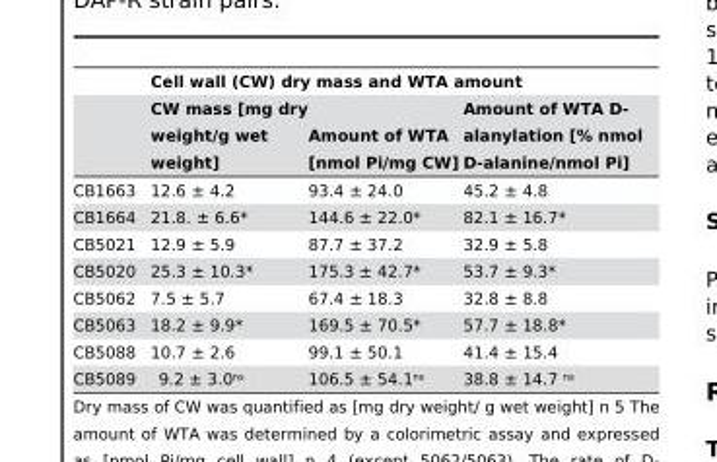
<table><thead><tr><td rowspan="2"></td><td colspan="3">Cell wall (CW) dry mass and WTA amount</td></tr><tr><td>CW mass [mg dry weight/g wet weight]</td><td>Amount of WTA [nmol Pi/mg CW]</td><td>Amount of WTA D- alanylation [% nmol D-alanine/nmol Pi]</td></tr></thead><tbody><tr><td>CB1663</td><td>12.6 ± 4.2</td><td>93.4 ± 24.0</td><td>45.2 ± 4.8</td></tr><tr><td>CB1664</td><td>21.8. ± 6.6*</td><td>144.6 ± 22.0*</td><td>82.1 ± 16.7*</td></tr><tr><td>CB5021</td><td>12.9 ± 5.9</td><td>87.7 ± 37.2</td><td>32.9 ± 5.8</td></tr><tr><td>CB5020</td><td>25.3 ± 10.3*</td><td>175.3 ± 42.7*</td><td>53.7 ± 9.3*</td></tr><tr><td>CB5062</td><td>7.5 ± 5.7</td><td>67.4 ± 18.3</td><td>32.8 ± 8.8</td></tr><tr><td>CB5063</td><td>18.2 ± 9.9*</td><td>169.5 ± 70.5*</td><td>57.7 ± 18.8*</td></tr><tr><td>CB5088</td><td>10.7 ± 2.6</td><td>99.1 ± 50.1</td><td>41.4 ± 15.4</td></tr><tr><td>CB5089</td><td>9.2 ± 3.0<sup>ns</sup></td><td>106.5 ± 54.1<sup>ns</sup></td><td>38.8 ± 14.7 <sup>ns</sup></td></tr></tbody></table>